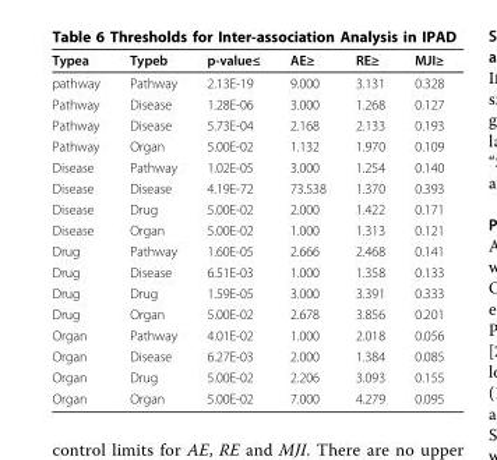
<table><thead><tr><td>Typea</td><td>Typeb</td><td>p-value≤</td><td>AE≥</td><td>RE≥</td><td>MJI≥</td></tr></thead><tbody><tr><td>pathway</td><td>Pathway</td><td>2.13E-19</td><td>9.000</td><td>3.131</td><td>0.328</td></tr><tr><td>Pathway</td><td>Disease</td><td>1.28E-06</td><td>3.000</td><td>1.268</td><td>0.127</td></tr><tr><td>Pathway</td><td>Disease</td><td>5.73E-04</td><td>2.168</td><td>2.133</td><td>0.193</td></tr><tr><td>Pathway</td><td>Organ</td><td>5.00E-02</td><td>1.132</td><td>1.970</td><td>0.109</td></tr><tr><td>Disease</td><td>Pathway</td><td>1.02E-05</td><td>3.000</td><td>1.254</td><td>0.140</td></tr><tr><td>Disease</td><td>Disease</td><td>4.19E-72</td><td>73.538</td><td>1.370</td><td>0.393</td></tr><tr><td>Disease</td><td>Drug</td><td>5.00E-02</td><td>2.000</td><td>1.422</td><td>0.171</td></tr><tr><td>Disease</td><td>Organ</td><td>5.00E-02</td><td>1.000</td><td>1.313</td><td>0.121</td></tr><tr><td>Drug</td><td>Pathway</td><td>1.60E-05</td><td>2.666</td><td>2.468</td><td>0.141</td></tr><tr><td>Drug</td><td>Disease</td><td>6.51E-03</td><td>1.000</td><td>1.358</td><td>0.133</td></tr><tr><td>Drug</td><td>Drug</td><td>1.59E-05</td><td>3.000</td><td>3.391</td><td>0.333</td></tr><tr><td>Drug</td><td>Organ</td><td>5.00E-02</td><td>2.678</td><td>3.856</td><td>0.201</td></tr><tr><td>Organ</td><td>Pathway</td><td>4.01E-02</td><td>1.000</td><td>2.018</td><td>0.056</td></tr><tr><td>Organ</td><td>Disease</td><td>6.27E-03</td><td>2.000</td><td>1.384</td><td>0.085</td></tr><tr><td>Organ</td><td>Drug</td><td>5.00E-02</td><td>2.206</td><td>3.093</td><td>0.155</td></tr><tr><td>Organ</td><td>Organ</td><td>5.00E-02</td><td>7.000</td><td>4.279</td><td>0.095</td></tr></tbody></table>